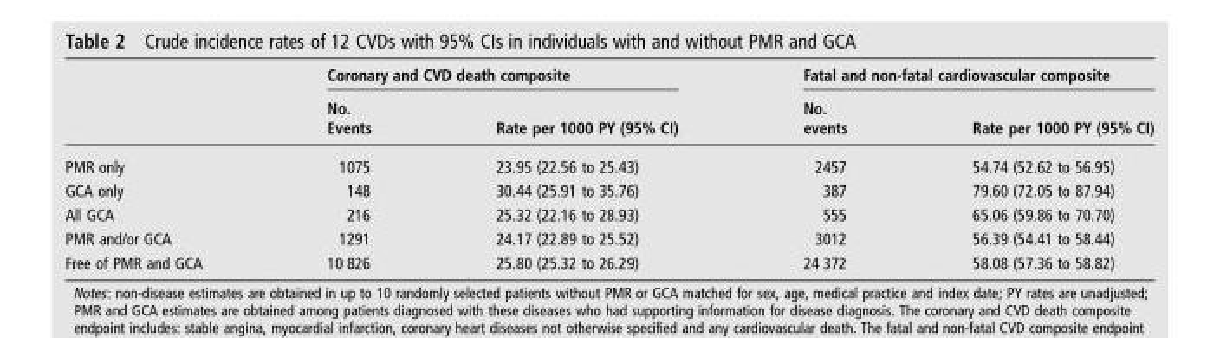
<table><thead><tr><td rowspan="2"></td><td colspan="2">Coronary and CVD death composite</td><td colspan="2">Fatal and non-fatal cardiovascular composite</td></tr><tr><td>No. Events</td><td>Rate per 1000 PY (95% CI)</td><td>No. events</td><td>Rate per 1000 PY (95% CI)</td></tr></thead><tbody><tr><td>PMR only</td><td>1075</td><td>23.95 (22.56 to 25.43)</td><td>2457</td><td>54.74 (52.62 to 56.95)</td></tr><tr><td>GCA only</td><td>148</td><td>30.44 (25.91 to 35.76)</td><td>387</td><td>79.60 (72.05 to 87.94)</td></tr><tr><td>All GCA</td><td>216</td><td>25.32 (22.16 to 28.93)</td><td>555</td><td>65.06 (59.86 to 70.70)</td></tr><tr><td>PMR and/or GCA</td><td>1291</td><td>24.17 (22.89 to 25.52)</td><td>3012</td><td>56.39 (54.41 to 58.44)</td></tr><tr><td>Free of PMR and GCA</td><td>10 826</td><td>25.80 (25.32 to 26.29)</td><td>24 372</td><td>58.08 (57.36 to 58.82)</td></tr></tbody></table>